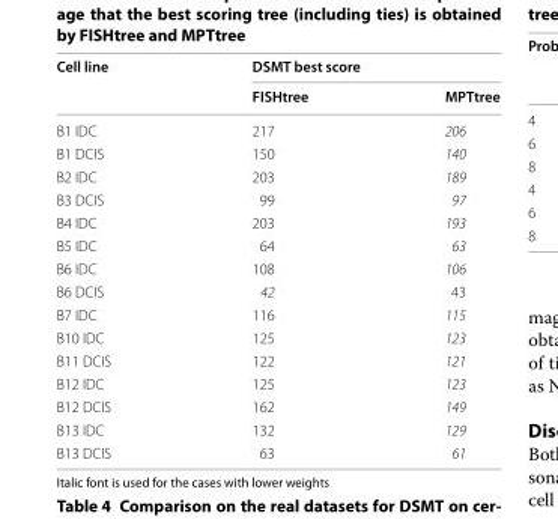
<table><thead><tr><td rowspan="2">Cell line</td><td colspan="2">DSMT best score</td></tr><tr><td>FISHtree</td><td>MPTtree</td></tr></thead><tbody><tr><td>B1 IDC</td><td>217</td><td>206</td></tr><tr><td>B1 DCIS</td><td>150</td><td>140</td></tr><tr><td>B2 IDC</td><td>203</td><td>189</td></tr><tr><td>B3 DCIS</td><td>99</td><td>97</td></tr><tr><td>B4 IDC</td><td>203</td><td>193</td></tr><tr><td>B5 IDC</td><td>64</td><td>63</td></tr><tr><td>B6 IDC</td><td>108</td><td>106</td></tr><tr><td>B6 DCIS</td><td>42</td><td>43</td></tr><tr><td>B7 IDC</td><td>116</td><td>115</td></tr><tr><td>B10 IDC</td><td>125</td><td>123</td></tr><tr><td>B11 DCIS</td><td>122</td><td>121</td></tr><tr><td>B12 IDC</td><td>125</td><td>123</td></tr><tr><td>B12 DCIS</td><td>162</td><td>149</td></tr><tr><td>B13 IDC</td><td>132</td><td>129</td></tr><tr><td>B13 DCIS</td><td>63</td><td>61</td></tr></tbody></table>